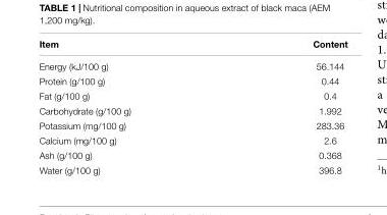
<table><thead><tr><td>Item</td><td>Content</td></tr></thead><tbody><tr><td>Energy (kJ/100 g)</td><td>56.144</td></tr><tr><td>Protein (g/100 g)</td><td>0.44</td></tr><tr><td>Fat (g/100 g)</td><td>0.4</td></tr><tr><td>Carbohydrate (g/100 g)</td><td>1.992</td></tr><tr><td>Potassium (mg/100 g)</td><td>283.36</td></tr><tr><td>Calcium (mg/100 g)</td><td>2.6</td></tr><tr><td>Ash (g/100 g)</td><td>0.368</td></tr><tr><td>Water (g/100 g)</td><td>396.8</td></tr></tbody></table>